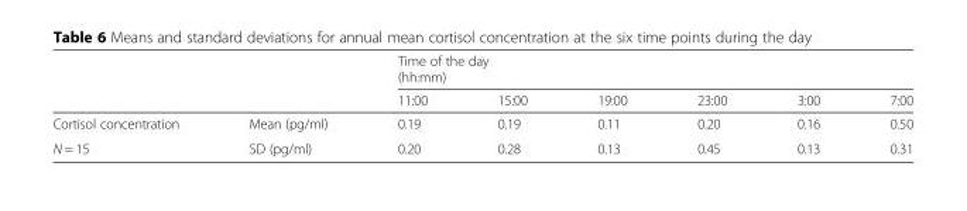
<table><thead><tr><td rowspan="2"></td><td rowspan="2"></td><td colspan="6">Time of the day (hh:mm)</td></tr><tr><td>11:00</td><td>15:00</td><td>19:00</td><td>23:00</td><td>3:00</td><td>7:00</td></tr></thead><tbody><tr><td>Cortisol concentration</td><td>Mean (pg/ml)</td><td>0.19</td><td>0.19</td><td>0.11</td><td>0.20</td><td>0.16</td><td>0.50</td></tr><tr><td>N = 15</td><td>SD (pg/ml)</td><td>0.20</td><td>0.28</td><td>0.13</td><td>0.45</td><td>0.13</td><td>0.31</td></tr></tbody></table>